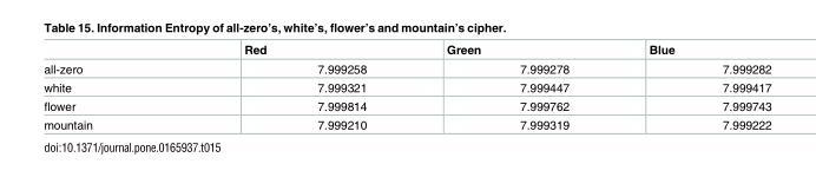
<table><thead><tr><td></td><td>Red</td><td>Green</td><td>Blue</td></tr></thead><tbody><tr><td>all-zero</td><td>7.999258</td><td>7.999278</td><td>7.999282</td></tr><tr><td>white</td><td>7.999321</td><td>7.999447</td><td>7.999417</td></tr><tr><td>flower</td><td>7.999814</td><td>7.999762</td><td>7.999743</td></tr><tr><td>mountain</td><td>7.999210</td><td>7.999319</td><td>7.999222</td></tr></tbody></table>